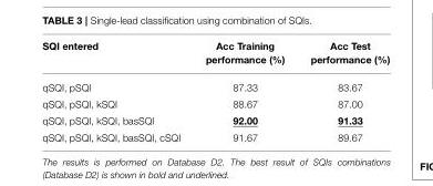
<table><thead><tr><td>SQI entered</td><td>Acc Training performance (%)</td><td>Acc Test performance (%)</td></tr></thead><tbody><tr><td>qSQI, pSQI</td><td>87.33</td><td>83.67</td></tr><tr><td>qSQI, pSQI, kSQI</td><td>88.67</td><td>87.00</td></tr><tr><td>qSQI, pSQI, kSQI, basSQI</td><td>92.00</td><td>91.33</td></tr><tr><td>qSQI, pSQI, kSQI, basSQI, cSQI</td><td>91.67</td><td>89.67</td></tr></tbody></table>